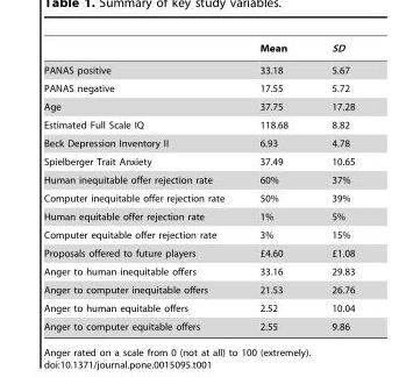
<table><thead><tr><td></td><td>Mean</td><td>SD</td></tr></thead><tbody><tr><td>PANAS positive</td><td>33.18</td><td>5.67</td></tr><tr><td>PANAS negative</td><td>17.55</td><td>5.72</td></tr><tr><td>Age</td><td>37.75</td><td>17.28</td></tr><tr><td>Estimated Full Scale IQ</td><td>118.68</td><td>8.82</td></tr><tr><td>Beck Depression Inventory II</td><td>6.93</td><td>4.78</td></tr><tr><td>Spielberger Trait Anxiety</td><td>37.49</td><td>10.65</td></tr><tr><td>Human inequitable offer rejection rate</td><td>60%</td><td>37%</td></tr><tr><td>Computer inequitable offer rejection rate</td><td>50%</td><td>39%</td></tr><tr><td>Human equitable offer rejection rate</td><td>1%</td><td>5%</td></tr><tr><td>Computer equitable offer rejection rate</td><td>3%</td><td>15%</td></tr><tr><td>Proposals offered to future players</td><td>£4.60</td><td>£1.08</td></tr><tr><td>Anger to human inequitable offers</td><td>33.16</td><td>29.83</td></tr><tr><td>Anger to computer inequitable offers</td><td>21.53</td><td>26.76</td></tr><tr><td>Anger to human equitable offers</td><td>2.52</td><td>10.04</td></tr><tr><td>Anger to computer equitable offers</td><td>2.55</td><td>9.86</td></tr></tbody></table>